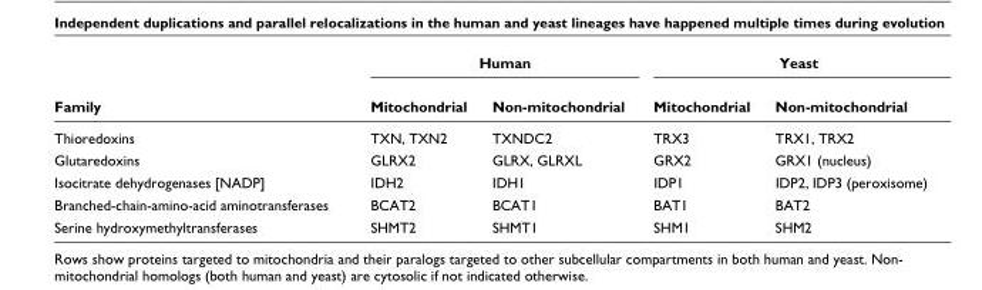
<table><thead><tr><td rowspan="2">Family</td><td colspan="2">Human</td><td colspan="2">Yeast</td></tr><tr><td>Mitochondrial</td><td>Non-mitochondrial</td><td>Mitochondrial</td><td>Non-mitochondrial</td></tr></thead><tbody><tr><td>Thioredoxins</td><td>TXN, TXN2</td><td>TXNDC2</td><td>TRX3</td><td>TRX1, TRX2</td></tr><tr><td>Glutaredoxins</td><td>GLRX2</td><td>GLRX, GLRXL</td><td>GRX2</td><td>GRX1 (nucleus)</td></tr><tr><td>Isocitrate dehydrogenases [NADP]</td><td>IDH2</td><td>IDH1</td><td>IDP1</td><td>IDP2, IDP3 (peroxisome)</td></tr><tr><td>Branched-chain-amino-acid aminotransferases</td><td>BCAT2</td><td>BCAT1</td><td>BAT1</td><td>BAT2</td></tr><tr><td>Serine hydroxymethyltransferases</td><td>SHMT2</td><td>SHMT1</td><td>SHM1</td><td>SHM2</td></tr></tbody></table>